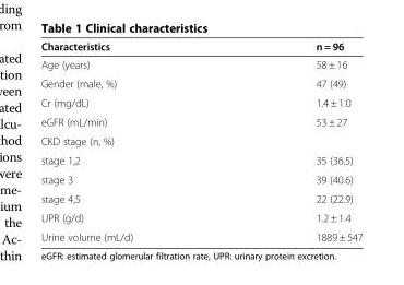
<table><thead><tr><td>Characteristics</td><td>n = 96</td></tr></thead><tbody><tr><td>Age (years)</td><td>58 ± 16</td></tr><tr><td>Gender (male, %)</td><td>47 (49)</td></tr><tr><td>Cr (mg/dL)</td><td>1.4 ± 1.0</td></tr><tr><td>eGFR (mL/min)</td><td>53 ± 27</td></tr><tr><td colspan="2">CKD stage (n, %)</td></tr><tr><td>stage 1,2</td><td>35 (36.5)</td></tr><tr><td>stage 3</td><td>39 (40.6)</td></tr><tr><td>stage 4,5</td><td>22 (22.9)</td></tr><tr><td>UPR (g/d)</td><td>1.2 ± 1.4</td></tr><tr><td>Urine volume (mL/d)</td><td>1889 ± 547</td></tr></tbody></table>